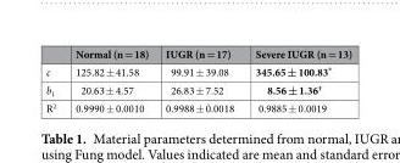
<table><thead><tr><td></td><td>Normal (n = 18)</td><td>IUGR (n = 17)</td><td>Severe IUGR (n = 13)</td></tr></thead><tbody><tr><td>c</td><td>125.82 ± 41.58</td><td>99.91 ± 39.08</td><td>345.65 ± 100.83*</td></tr><tr><td>b<sub>1</sub></td><td>20.63 ± 4.57</td><td>26.83 ± 7.52</td><td>8.56 ± 1.36<sup>†</sup></td></tr><tr><td>R<sup>2</sup></td><td>0.9990 ± 0.0010</td><td>0.9988 ± 0.0018</td><td>0.9885 ± 0.0019</td></tr></tbody></table>